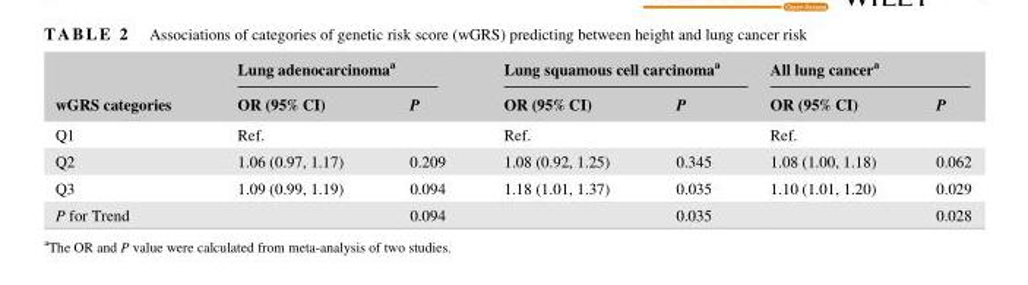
<table><thead><tr><td rowspan="2">wGRS categories</td><td colspan="2">Lung adenocarcinoma<sup>a</sup></td><td colspan="2">Lung squamous cell carcinoma<sup>a</sup></td><td colspan="2">All lung cancer<sup>a</sup></td></tr><tr><td>OR (95% CI)</td><td>P</td><td>OR (95% CI)</td><td>P</td><td>OR (95% CI)</td><td>P</td></tr></thead><tbody><tr><td>Q1</td><td>Ref.</td><td></td><td>Ref.</td><td></td><td>Ref.</td><td></td></tr><tr><td>Q2</td><td>1.06 (0.97, 1.17)</td><td>0.209</td><td>1.08 (0.92, 1.25)</td><td>0.345</td><td>1.08 (1.00, 1.18)</td><td>0.062</td></tr><tr><td>Q3</td><td>1.09 (0.99, 1.19)</td><td>0.094</td><td>1.18 (1.01, 1.37)</td><td>0.035</td><td>1.10 (1.01, 1.20)</td><td>0.029</td></tr><tr><td>P for Trend</td><td></td><td>0.094</td><td></td><td>0.035</td><td></td><td>0.028</td></tr></tbody></table>